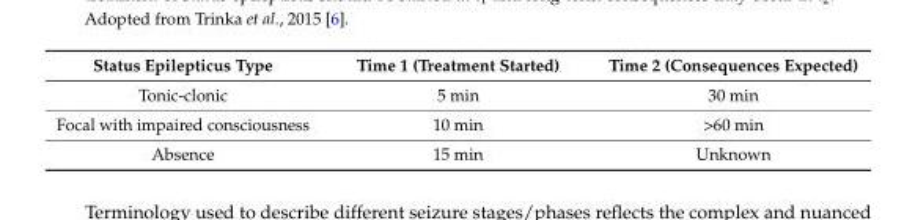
<table><thead><tr><td>Status Epilepticus Type</td><td>Time 1 (Treatment Started)</td><td>Time 2 (Consequences Expected)</td></tr></thead><tbody><tr><td>Tonic-clonic</td><td>5 min</td><td>30 min</td></tr><tr><td>Focal with impaired consciousness</td><td>10 min</td><td>&gt;60 min</td></tr><tr><td>Absence</td><td>15 min</td><td>Unknown</td></tr></tbody></table>